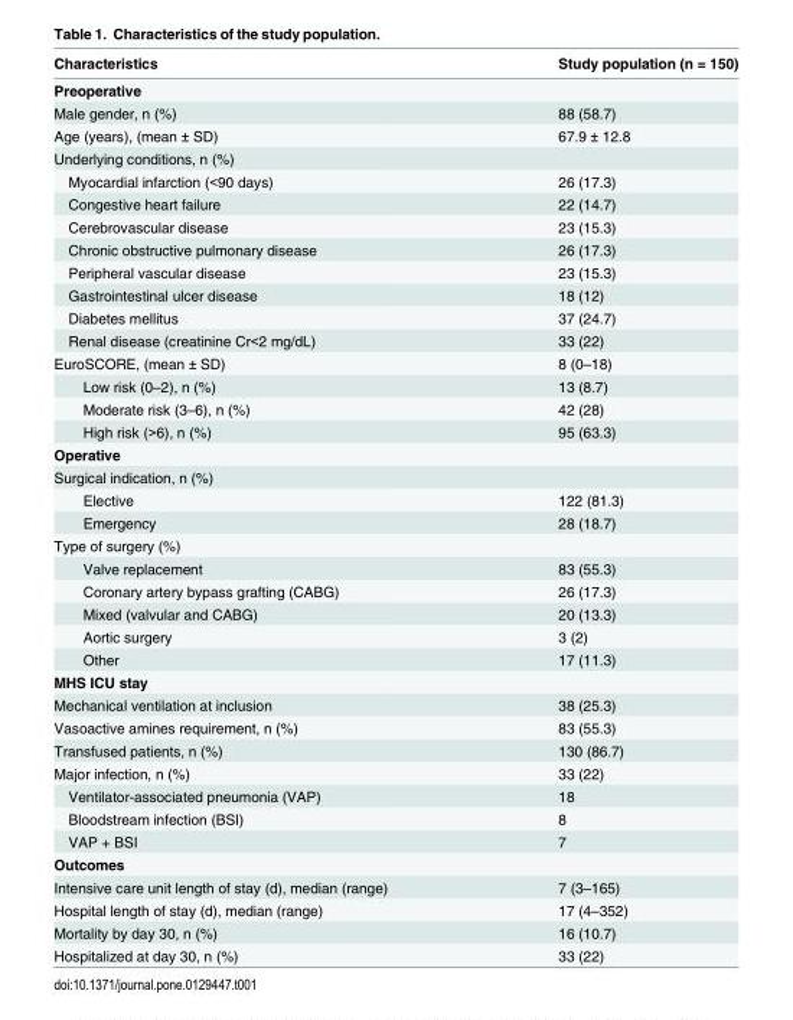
<table><thead><tr><td>Characteristics</td><td>Study population (n = 150)</td></tr></thead><tbody><tr><td colspan="2">Preoperative</td></tr><tr><td>Male gender, n (%)</td><td>88 (58.7)</td></tr><tr><td>Age (years), (mean ± SD)</td><td>67.9 ± 12.8</td></tr><tr><td colspan="2">Underlying conditions, n (%)</td></tr><tr><td>Myocardial infarction (&lt;90 days)</td><td>26 (17.3)</td></tr><tr><td>Congestive heart failure</td><td>22 (14.7)</td></tr><tr><td>Cerebrovascular disease</td><td>23 (15.3)</td></tr><tr><td>Chronic obstructive pulmonary disease</td><td>26 (17.3)</td></tr><tr><td>Peripheral vascular disease</td><td>23 (15.3)</td></tr><tr><td>Gastrointestinal ulcer disease</td><td>18 (12)</td></tr><tr><td>Diabetes mellitus</td><td>37 (24.7)</td></tr><tr><td>Renal disease (creatinine Cr&lt;2 mg/dL)</td><td>33 (22)</td></tr><tr><td>EuroSCORE, (mean ± SD)</td><td>8 (0–18)</td></tr><tr><td>Low risk (0–2), n (%)</td><td>13 (8.7)</td></tr><tr><td>Moderate risk (3–6), n (%)</td><td>42 (28)</td></tr><tr><td>High risk (&gt;6), n (%)</td><td>95 (63.3)</td></tr><tr><td colspan="2">Operative</td></tr><tr><td colspan="2">Surgical indication, n (%)</td></tr><tr><td>Elective</td><td>122 (81.3)</td></tr><tr><td>Emergency</td><td>28 (18.7)</td></tr><tr><td colspan="2">Type of surgery (%)</td></tr><tr><td>Valve replacement</td><td>83 (55.3)</td></tr><tr><td>Coronary artery bypass grafting (CABG)</td><td>26 (17.3)</td></tr><tr><td>Mixed (valvular and CABG)</td><td>20 (13.3)</td></tr><tr><td>Aortic surgery</td><td>3 (2)</td></tr><tr><td>Other</td><td>17 (11.3)</td></tr><tr><td colspan="2">MHS ICU stay</td></tr><tr><td>Mechanical ventilation at inclusion</td><td>38 (25.3)</td></tr><tr><td>Vasoactive amines requirement, n (%)</td><td>83 (55.3)</td></tr><tr><td>Transfused patients, n (%)</td><td>130 (86.7)</td></tr><tr><td>Major infection, n (%)</td><td>33 (22)</td></tr><tr><td>Ventilator-associated pneumonia (VAP)</td><td>18</td></tr><tr><td>Bloodstream infection (BSI)</td><td>8</td></tr><tr><td>VAP + BSI</td><td>7</td></tr><tr><td colspan="2">Outcomes</td></tr><tr><td>Intensive care unit length of stay (d), median (range)</td><td>7 (3–165)</td></tr><tr><td>Hospital length of stay (d), median (range)</td><td>17 (4–352)</td></tr><tr><td>Mortality by day 30, n (%)</td><td>16 (10.7)</td></tr><tr><td>Hospitalized at day 30, n (%)</td><td>33 (22)</td></tr></tbody></table>